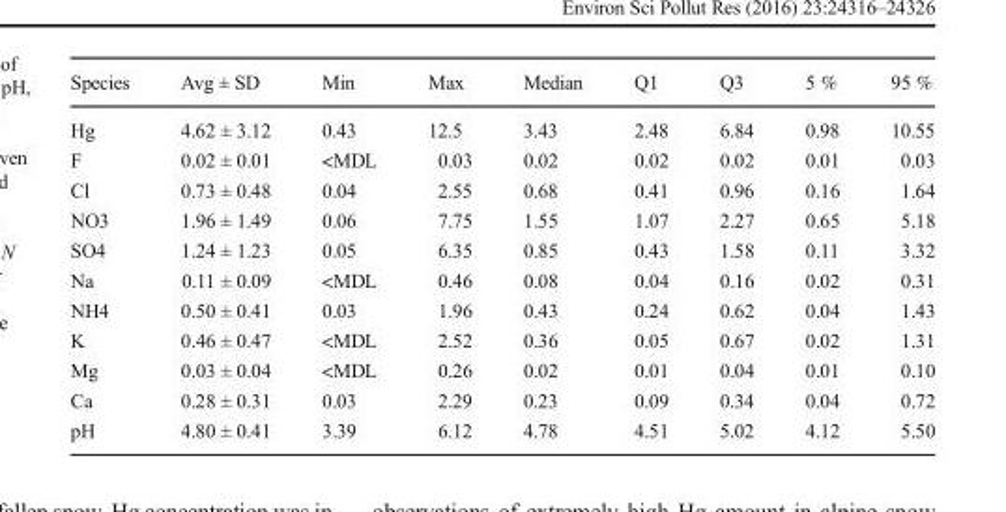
<table><thead><tr><td>Species</td><td>Avg ± SD</td><td>Min</td><td>Max</td><td>Median</td><td>Q1</td><td>Q3</td><td>5 %</td><td>95 %</td></tr></thead><tbody><tr><td>Hg</td><td>4.62 ± 3.12</td><td>0.43</td><td>12.5</td><td>3.43</td><td>2.48</td><td>6.84</td><td>0.98</td><td>10.55</td></tr><tr><td>F</td><td>0.02 ± 0.01</td><td>&lt;MDL</td><td>0.03</td><td>0.02</td><td>0.02</td><td>0.02</td><td>0.01</td><td>0.03</td></tr><tr><td>Cl</td><td>0.73 ± 0.48</td><td>0.04</td><td>2.55</td><td>0.68</td><td>0.41</td><td>0.96</td><td>0.16</td><td>1.64</td></tr><tr><td>NO3</td><td>1.96 ± 1.49</td><td>0.06</td><td>7.75</td><td>1.55</td><td>1.07</td><td>2.27</td><td>0.65</td><td>5.18</td></tr><tr><td>SO4</td><td>1.24 ± 1.23</td><td>0.05</td><td>6.35</td><td>0.85</td><td>0.43</td><td>1.58</td><td>0.11</td><td>3.32</td></tr><tr><td>Na</td><td>0.11 ± 0.09</td><td>&lt;MDL</td><td>0.46</td><td>0.08</td><td>0.04</td><td>0.16</td><td>0.02</td><td>0.31</td></tr><tr><td>NH4</td><td>0.50 ± 0.41</td><td>0.03</td><td>1.96</td><td>0.43</td><td>0.24</td><td>0.62</td><td>0.04</td><td>1.43</td></tr><tr><td>K</td><td>0.46 ± 0.47</td><td>&lt;MDL</td><td>2.52</td><td>0.36</td><td>0.05</td><td>0.67</td><td>0.02</td><td>1.31</td></tr><tr><td>Mg</td><td>0.03 ± 0.04</td><td>&lt;MDL</td><td>0.26</td><td>0.02</td><td>0.01</td><td>0.04</td><td>0.01</td><td>0.10</td></tr><tr><td>Ca</td><td>0.28 ± 0.31</td><td>0.03</td><td>2.29</td><td>0.23</td><td>0.09</td><td>0.34</td><td>0.04</td><td>0.72</td></tr><tr><td>pH</td><td>4.80 ± 0.41</td><td>3.39</td><td>6.12</td><td>4.78</td><td>4.51</td><td>5.02</td><td>4.12</td><td>5.50</td></tr></tbody></table>